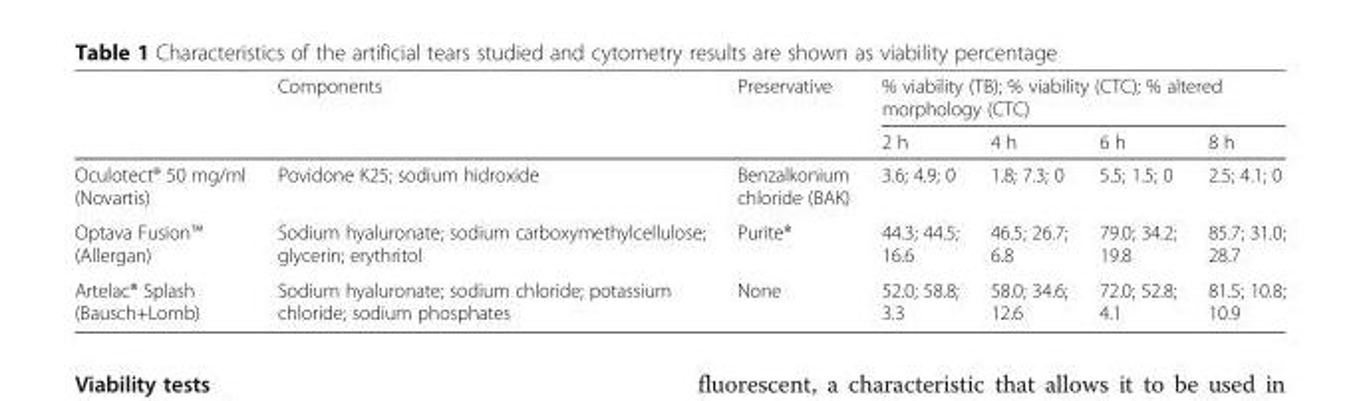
<table><thead><tr><td rowspan="2"></td><td rowspan="2">Components</td><td rowspan="2">Preservative</td><td colspan="4">% viability (TB); % viability (CTC); % altered morphology (CTC)</td></tr><tr><td>2 h</td><td>4 h</td><td>6 h</td><td>8 h</td></tr></thead><tbody><tr><td>Oculotect® 50 mg/ml (Novartis)</td><td>Povidone K25; sodium hidroxide</td><td>Benzalkonium chloride (BAK)</td><td>3.6; 4.9; 0</td><td>1.8; 7.3; 0</td><td>5.5; 1.5; 0</td><td>2.5; 4.1; 0</td></tr><tr><td>Optava Fusion™ (Allergan)</td><td>Sodium hyaluronate; sodium carboxymethylcellulose; glycerin; erythritol</td><td>Purite®</td><td>44.3; 44.5; 16.6</td><td>46.5; 26.7; 6.8</td><td>79.0; 34.2; 19.8</td><td>85.7; 31.0; 28.7</td></tr><tr><td>Artelac® Splash (Bausch+Lomb)</td><td>Sodium hyaluronate; sodium chloride; potassium chloride; sodium phosphates</td><td>None</td><td>52.0; 58.8; 3.3</td><td>58.0; 34.6; 12.6</td><td>72.0; 52.8; 4.1</td><td>81.5; 10.8; 10.9</td></tr></tbody></table>